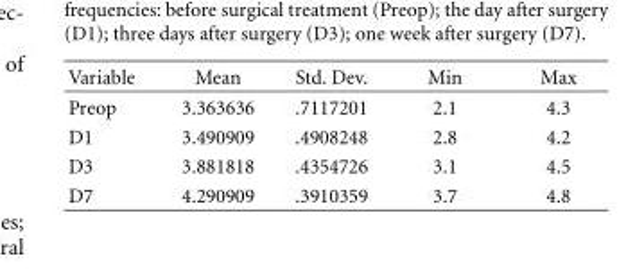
<table><thead><tr><td>Variable</td><td>Mean</td><td>Std. Dev.</td><td>Min</td><td>Max</td></tr></thead><tbody><tr><td>Preop</td><td>3.363636</td><td>.7117201</td><td>2.1</td><td>4.3</td></tr><tr><td>D1</td><td>3.490909</td><td>.4908248</td><td>2.8</td><td>4.2</td></tr><tr><td>D3</td><td>3.881818</td><td>.4354726</td><td>3.1</td><td>4.5</td></tr><tr><td>D7</td><td>4.290909</td><td>.3910359</td><td>3.7</td><td>4.8</td></tr></tbody></table>